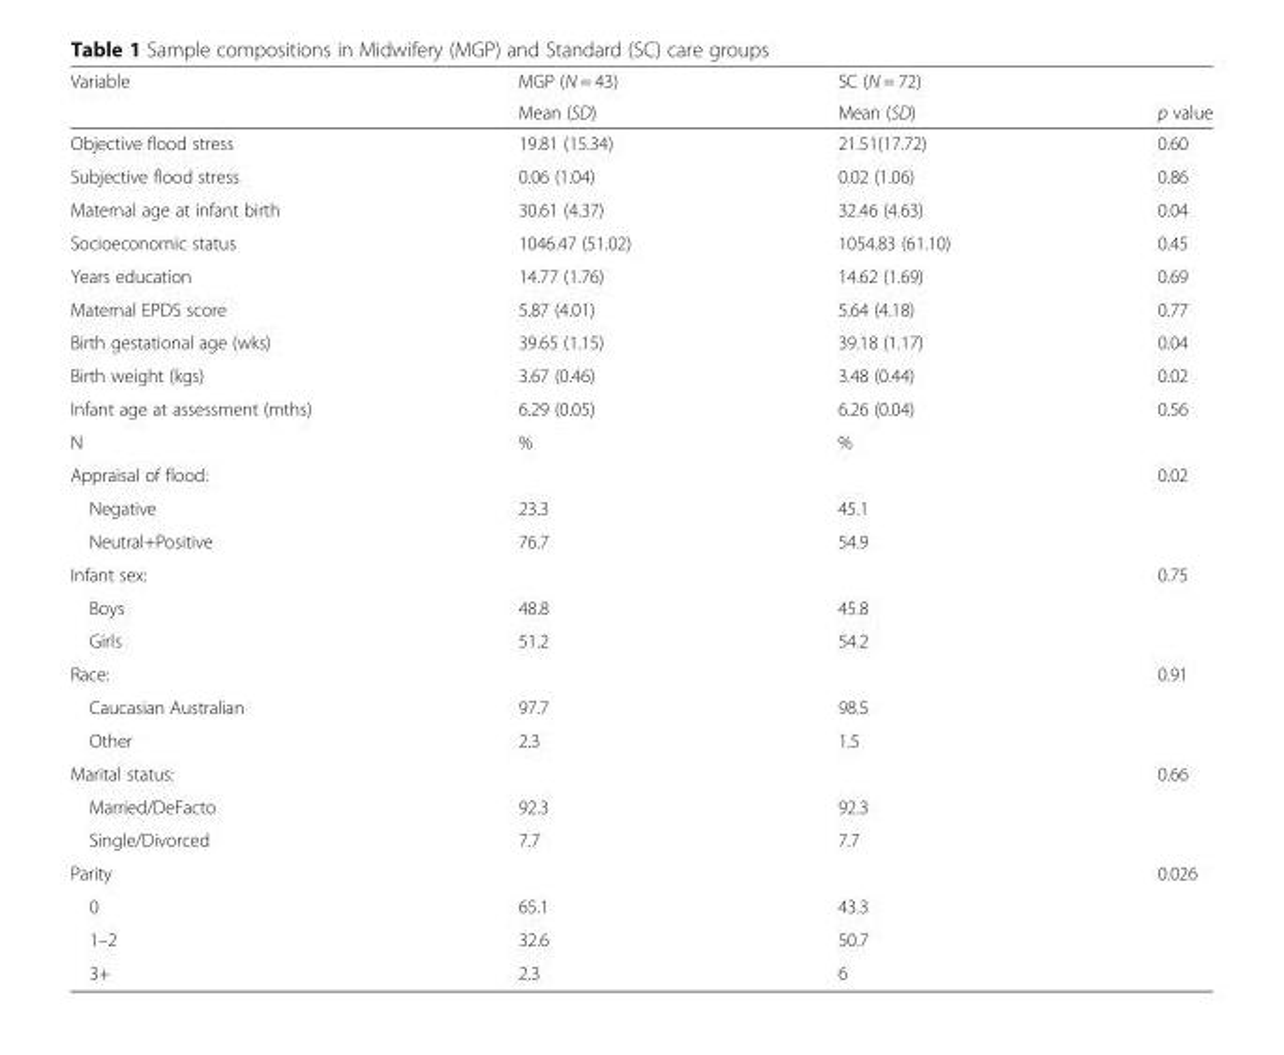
<table><thead><tr><td rowspan="2">Variable</td><td rowspan="2">MGP (N = 43) Mean (SD)</td><td rowspan="2">SC (N = 72) Mean (SD)</td><td rowspan="2">p value</td></tr><tr></tr></thead><tbody><tr><td>Objective flood stress</td><td>19.81 (15.34)</td><td>21.51(17.72)</td><td>0.60</td></tr><tr><td>Subjective flood stress</td><td>0.06 (1.04)</td><td>0.02 (1.06)</td><td>0.86</td></tr><tr><td>Maternal age at infant birth</td><td>30.61 (4.37)</td><td>32.46 (4.63)</td><td>0.04</td></tr><tr><td>Socioeconomic status</td><td>1046.47 (51.02)</td><td>1054.83 (61.10)</td><td>0.45</td></tr><tr><td>Years education</td><td>14.77 (1.76)</td><td>14.62 (1.69)</td><td>0.69</td></tr><tr><td>Maternal EPDS score</td><td>5.87 (4.01)</td><td>5.64 (4.18)</td><td>0.77</td></tr><tr><td>Birth gestational age (wks)</td><td>39.65 (1.15)</td><td>39.18 (1.17)</td><td>0.04</td></tr><tr><td>Birth weight (kgs)</td><td>3.67 (0.46)</td><td>3.48 (0.44)</td><td>0.02</td></tr><tr><td>Infant age at assessment (mths)</td><td>6.29 (0.05)</td><td>6.26 (0.04)</td><td>0.56</td></tr><tr><td>N</td><td>%</td><td>%</td><td></td></tr><tr><td>Appraisal of flood:</td><td></td><td></td><td>0.02</td></tr><tr><td>Negative</td><td>23.3</td><td>45.1</td><td></td></tr><tr><td>Neutral+Positive</td><td>76.7</td><td>54.9</td><td></td></tr><tr><td>Infant sex:</td><td></td><td></td><td>0.75</td></tr><tr><td>Boys</td><td>48.8</td><td>45.8</td><td></td></tr><tr><td>Girls</td><td>51.2</td><td>54.2</td><td></td></tr><tr><td>Race:</td><td></td><td></td><td>0.91</td></tr><tr><td>Caucasian Australian</td><td>97.7</td><td>98.5</td><td></td></tr><tr><td>Other</td><td>2.3</td><td>1.5</td><td></td></tr><tr><td>Marital status:</td><td></td><td></td><td>0.66</td></tr><tr><td>Married/DeFacto</td><td>92.3</td><td>92.3</td><td></td></tr><tr><td>Single/Divorced</td><td>7.7</td><td>7.7</td><td></td></tr><tr><td>Parity</td><td></td><td></td><td>0.026</td></tr><tr><td>0</td><td>65.1</td><td>43.3</td><td></td></tr><tr><td>1–2</td><td>32.6</td><td>50.7</td><td></td></tr><tr><td>3+</td><td>2.3</td><td>6</td><td></td></tr></tbody></table>